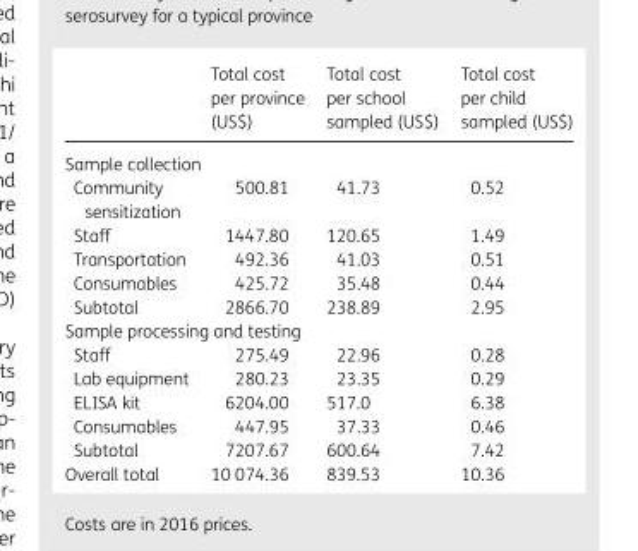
<table><thead><tr><td></td><td>Total cost per province (US$)</td><td>Total cost per school sampled (US$)</td><td>Total cost per child sampled (US$)</td></tr></thead><tbody><tr><td colspan="4">Sample collection</td></tr><tr><td>Community sensitization</td><td>500.81</td><td>41.73</td><td>0.52</td></tr><tr><td>Staff</td><td>1447.80</td><td>120.65</td><td>1.49</td></tr><tr><td>Transportation</td><td>492.36</td><td>41.03</td><td>0.51</td></tr><tr><td>Consumables</td><td>425.72</td><td>35.48</td><td>0.44</td></tr><tr><td>Subtotal</td><td>2866.70</td><td>238.89</td><td>2.95</td></tr><tr><td colspan="4">Sample processing and testing</td></tr><tr><td>Staff</td><td>275.49</td><td>22.96</td><td>0.28</td></tr><tr><td>Lab equipment</td><td>280.23</td><td>23.35</td><td>0.29</td></tr><tr><td>ELISA kit</td><td>6204.00</td><td>517.0</td><td>6.38</td></tr><tr><td>Consumables</td><td>447.95</td><td>37.33</td><td>0.46</td></tr><tr><td>Subtotal</td><td>7207.67</td><td>600.64</td><td>7.42</td></tr><tr><td>Overall total</td><td>10 074.36</td><td>839.53</td><td>10.36</td></tr></tbody></table>